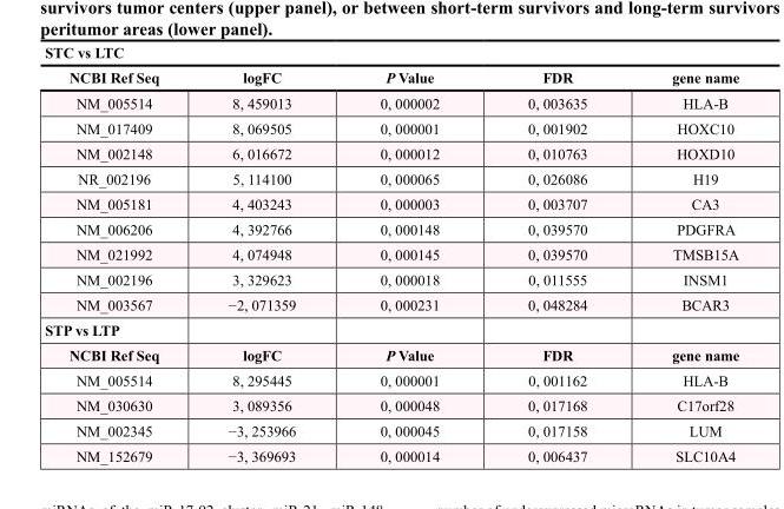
<table><thead><tr><td colspan="5">STC vs LTC</td></tr><tr><td>NCBI Ref Seq</td><td>logFC</td><td>P Value</td><td>FDR</td><td>gene name</td></tr></thead><tbody><tr><td>NM_005514</td><td>8, 459013</td><td>0, 000002</td><td>0, 003635</td><td>HLA-B</td></tr><tr><td>NM_017409</td><td>8, 069505</td><td>0, 000001</td><td>0, 001902</td><td>HOXC10</td></tr><tr><td>NM_002148</td><td>6, 016672</td><td>0, 000012</td><td>0, 010763</td><td>HOXD10</td></tr><tr><td>NR_002196</td><td>5, 114100</td><td>0, 000065</td><td>0, 026086</td><td>H19</td></tr><tr><td>NM_005181</td><td>4, 403243</td><td>0, 000003</td><td>0, 003707</td><td>CA3</td></tr><tr><td>NM_006206</td><td>4, 392766</td><td>0, 000148</td><td>0, 039570</td><td>PDGFRA</td></tr><tr><td>NM_021992</td><td>4, 074948</td><td>0, 000145</td><td>0, 039570</td><td>TMSB15A</td></tr><tr><td>NM_002196</td><td>3, 329623</td><td>0, 000018</td><td>0, 011555</td><td>INSM1</td></tr><tr><td>NM_003567</td><td>−2, 071359</td><td>0, 000231</td><td>0, 048284</td><td>BCAR3</td></tr><tr><td colspan="5">STP vs LTP</td></tr><tr><td>NCBI Ref Seq</td><td>logFC</td><td>P Value</td><td>FDR</td><td>gene name</td></tr><tr><td>NM_005514</td><td>8, 295445</td><td>0, 000001</td><td>0, 001162</td><td>HLA-B</td></tr><tr><td>NM_030630</td><td>3, 089356</td><td>0, 000048</td><td>0, 017168</td><td>C17orf28</td></tr><tr><td>NM_002345</td><td>−3, 253966</td><td>0, 000045</td><td>0, 017158</td><td>LUM</td></tr><tr><td>NM_152679</td><td>−3, 369693</td><td>0, 000014</td><td>0, 006437</td><td>SLC10A4</td></tr></tbody></table>